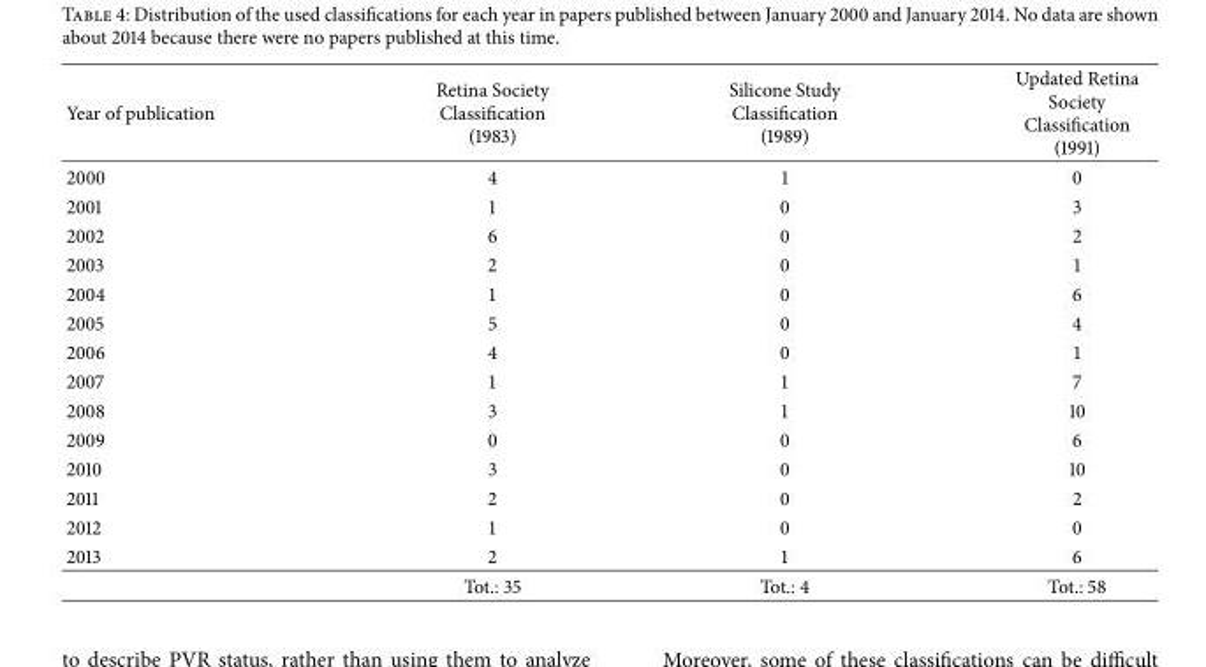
<table><thead><tr><td>Year of publication</td><td>Retina Society Classification (1983)</td><td>Silicone Study Classification (1989)</td><td>Updated Retina Society Classification (1991)</td></tr></thead><tbody><tr><td>2000</td><td>4</td><td>1</td><td>0</td></tr><tr><td>2001</td><td>1</td><td>0</td><td>3</td></tr><tr><td>2002</td><td>6</td><td>0</td><td>2</td></tr><tr><td>2003</td><td>2</td><td>0</td><td>1</td></tr><tr><td>2004</td><td>1</td><td>0</td><td>6</td></tr><tr><td>2005</td><td>5</td><td>0</td><td>4</td></tr><tr><td>2006</td><td>4</td><td>0</td><td>1</td></tr><tr><td>2007</td><td>1</td><td>1</td><td>7</td></tr><tr><td>2008</td><td>3</td><td>1</td><td>10</td></tr><tr><td>2009</td><td>0</td><td>0</td><td>6</td></tr><tr><td>2010</td><td>3</td><td>0</td><td>10</td></tr><tr><td>2011</td><td>2</td><td>0</td><td>2</td></tr><tr><td>2012</td><td>1</td><td>0</td><td>0</td></tr><tr><td rowspan="2">2013</td><td>2</td><td>1</td><td>6</td></tr><tr><td>Tot.: 35</td><td>Tot.: 4</td><td>Tot.: 58</td></tr></tbody></table>